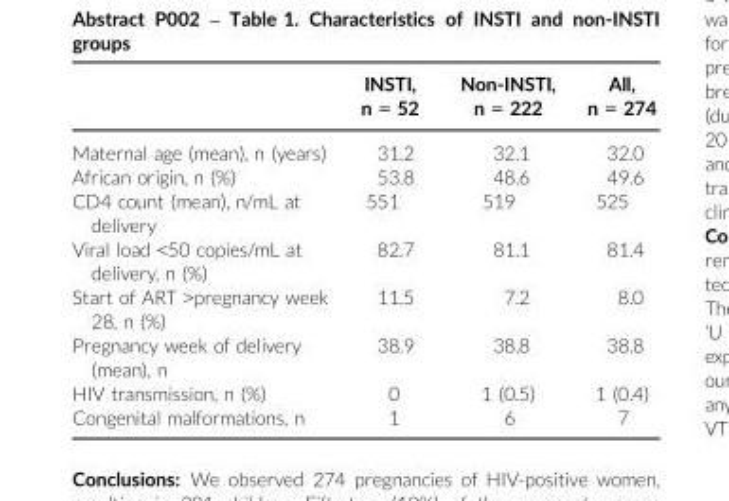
<table><thead><tr><td></td><td>INSTI, n = 52</td><td>Non-INSTI, n = 222</td><td>All, n = 274</td></tr></thead><tbody><tr><td>Maternal age (mean), n (years)</td><td>31.2</td><td>32.1</td><td>32.0</td></tr><tr><td>African origin, n (%)</td><td>53.8</td><td>48.6</td><td>49.6</td></tr><tr><td>CD4 count (mean), n/mL at delivery</td><td>551</td><td>519</td><td>525</td></tr><tr><td>Viral load &lt;50 copies/mL at delivery, n (%)</td><td>82.7</td><td>81.1</td><td>81.4</td></tr><tr><td>Start of ART &gt;pregnancy week 28, n (%)</td><td>11.5</td><td>7.2</td><td>8.0</td></tr><tr><td>Pregnancy week of delivery (mean), n</td><td>38.9</td><td>38.8</td><td>38.8</td></tr><tr><td>HIV transmission, n (%)</td><td>0</td><td>1 (0.5)</td><td>1 (0.4)</td></tr><tr><td>Congenital malformations, n</td><td>1</td><td>6</td><td>7</td></tr></tbody></table>